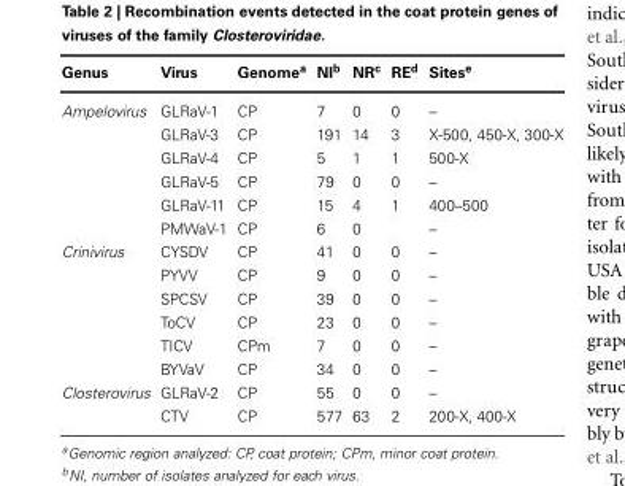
<table><thead><tr><td>Genus</td><td>Virus</td><td>Genome<sup>a</sup></td><td>NI<sup>b</sup></td><td>NR<sup>c</sup></td><td>RE<sup>d</sup></td><td>Sites<sup>e</sup></td></tr></thead><tbody><tr><td rowspan="6">Ampelovirus</td><td>GLRaV-1</td><td>CP</td><td>7</td><td>0</td><td>0</td><td>–</td></tr><tr><td>GLRaV-3</td><td>CP</td><td>191</td><td>14</td><td>3</td><td>X-500, 450-X, 300-X</td></tr><tr><td>GLRaV-4</td><td>CP</td><td>5</td><td>1</td><td>1</td><td>500-X</td></tr><tr><td>GLRaV-5</td><td>CP</td><td>79</td><td>0</td><td>0</td><td>–</td></tr><tr><td>GLRaV-11</td><td>CP</td><td>15</td><td>4</td><td>1</td><td>400–500</td></tr><tr><td>PMWaV-1</td><td>CP</td><td>6</td><td>0</td><td></td><td>–</td></tr><tr><td rowspan="6">Crinivirus</td><td>CYSDV</td><td>CP</td><td>41</td><td>0</td><td>0</td><td>–</td></tr><tr><td>PYVV</td><td>CP</td><td>9</td><td>0</td><td>0</td><td>–</td></tr><tr><td>SPCSV</td><td>CP</td><td>39</td><td>0</td><td>0</td><td>–</td></tr><tr><td>ToCV</td><td>CP</td><td>23</td><td>0</td><td>0</td><td>–</td></tr><tr><td>TICV</td><td>CPm</td><td>7</td><td>0</td><td>0</td><td>–</td></tr><tr><td>BYVaV</td><td>CP</td><td>34</td><td>0</td><td>0</td><td>–</td></tr><tr><td rowspan="2">Closterovirus</td><td>GLRaV-2</td><td>CP</td><td>55</td><td>0</td><td>0</td><td>–</td></tr><tr><td>CTV</td><td>CP</td><td>577</td><td>63</td><td>2</td><td>200-X, 400-X</td></tr></tbody></table>